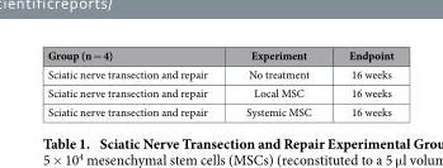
<table><thead><tr><td>Group (n = 4)</td><td>Experiment</td><td>Endpoint</td></tr></thead><tbody><tr><td>Sciatic nerve transection and repair</td><td>No treatment</td><td>16 weeks</td></tr><tr><td>Sciatic nerve transection and repair</td><td>Local MSC</td><td>16 weeks</td></tr><tr><td>Sciatic nerve transection and repair</td><td>Systemic MSC</td><td>16 weeks</td></tr></tbody></table>